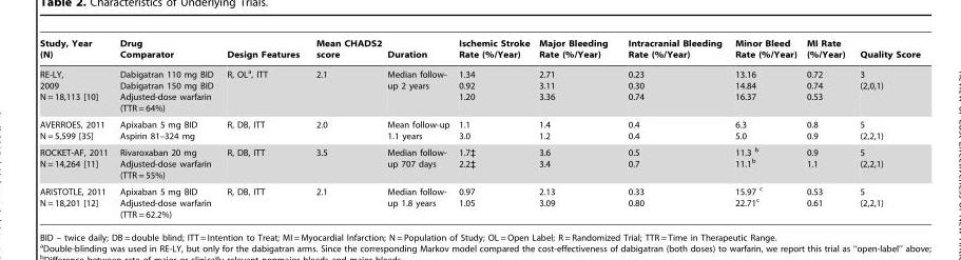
<table><thead><tr><td>Study, Year (N)</td><td>Drug Comparator</td><td>Design Features</td><td>Mean CHADS2 score</td><td>Duration</td><td>Ischemic Stroke Rate (%/Year)</td><td>Major Bleeding Rate (%/Year)</td><td>Intracranial Bleeding Rate (%/Year)</td><td>Minor Bleed Rate (%/Year)</td><td>MI Rate (%/Year)</td><td>Quality Score</td></tr></thead><tbody><tr><td>RE-LY, 2009 N = 18,113 [10]</td><td>Dabigatran 110 mg BID Dabigatran 150 mg BID Adjusted-dose warfarin (TTR = 64%)</td><td>R, OL<sup>a</sup>, ITT</td><td>2.1</td><td>Median follow- up 2 years</td><td>1.34 0.92 1.20</td><td>2.71 3.11 3.36</td><td>0.23 0.30 0.74</td><td>13.16 14.84 16.37</td><td>0.72 0.74 0.53</td><td>3 (2,0,1)</td></tr><tr><td>AVERROES, 2011 N = 5,599 [35]</td><td>Apixaban 5 mg BID Aspirin 81–324 mg</td><td>R, DB, ITT</td><td>2.0</td><td>Mean follow-up 1.1 years</td><td>1.1 3.0</td><td>1.4 1.2</td><td>0.4 0.4</td><td>6.3 5.0</td><td>0.8 0.9</td><td>5 (2,2,1)</td></tr><tr><td>ROCKET-AF, 2011 N = 14,264 [11]</td><td>Rivaroxaban 20 mg Adjusted-dose warfarin (TTR = 55%)</td><td>R, DB, ITT</td><td>3.5</td><td>Median follow- up 707 days</td><td>1.7‡ 2.2‡</td><td>3.6 3.4</td><td>0.5 0.7</td><td>11.3 b 11.1<sup>b</sup></td><td>0.9 1.1</td><td>5 (2,2,1)</td></tr><tr><td>ARISTOTLE, 2011 N = 18,201 [12]</td><td>Apixaban 5 mg BID Adjusted-dose warfarin (TTR = 62.2%)</td><td>R, DB, ITT</td><td>2.1</td><td>Median follow- up 1.8 years</td><td>0.97 1.05</td><td>2.13 3.09</td><td>0.33 0.80</td><td>15.97 c 22.71<sup>c</sup></td><td>0.53 0.61</td><td>5 (2,2,1)</td></tr></tbody></table>